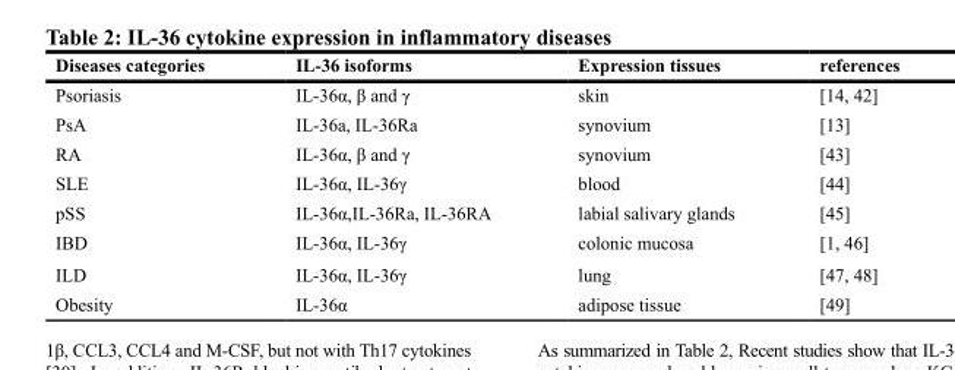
<table><thead><tr><td>Diseases categories</td><td>IL-36 isoforms</td><td>Expression tissues</td><td>references</td></tr></thead><tbody><tr><td>Psoriasis</td><td>IL-36α, β and γ</td><td>skin</td><td>[14, 42]</td></tr><tr><td>PsA</td><td>IL-36a, IL-36Ra</td><td>synovium</td><td>[13]</td></tr><tr><td>RA</td><td>IL-36α, β and γ</td><td>synovium</td><td>[43]</td></tr><tr><td>SLE</td><td>IL-36α, IL-36γ</td><td>blood</td><td>[44]</td></tr><tr><td>pSS</td><td>IL-36α,IL-36Ra, IL-36RA</td><td>labial salivary glands</td><td>[45]</td></tr><tr><td>IBD</td><td>IL-36α, IL-36γ</td><td>colonic mucosa</td><td>[1, 46]</td></tr><tr><td>ILD</td><td>IL-36α, IL-36γ</td><td>lung</td><td>[47, 48]</td></tr><tr><td>Obesity</td><td>IL-36α</td><td>adipose tissue</td><td>[49]</td></tr></tbody></table>